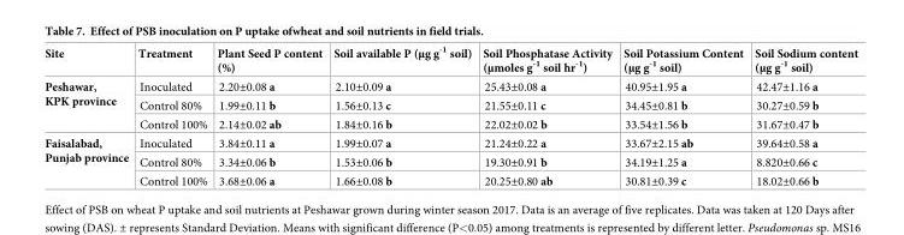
<table><thead><tr><td>Site</td><td>Treatment</td><td>Plant Seed P content (%)</td><td>Soil available P (μg g<sup>-1</sup> soil)</td><td>Soil Phosphatase Activity (μmoles g<sup>-1</sup> soil hr<sup>-1</sup>)</td><td>Soil Potassium Content (μg g<sup>-1</sup> soil)</td><td>Soil Sodium content (μg g<sup>-1</sup> soil)</td></tr></thead><tbody><tr><td rowspan="3">Peshawar, KPK province</td><td>Inoculated</td><td>2.20±0.08 a</td><td>2.10±0.09 a</td><td>25.43±0.08 a</td><td>40.95±1.95 a</td><td>42.47±1.16 a</td></tr><tr><td>Control 80%</td><td>1.99±0.11 b</td><td>1.56±0.13 c</td><td>21.55±0.11 c</td><td>34.45±0.81 b</td><td>30.27±0.59 b</td></tr><tr><td>Control 100%</td><td>2.14±0.02 ab</td><td>1.84±0.16 b</td><td>22.02±0.02 b</td><td>33.54±1.56 b</td><td>31.67±0.47 b</td></tr><tr><td rowspan="3">Faisalabad, Punjab province</td><td>Inoculated</td><td>3.84±0.11 a</td><td>1.99±0.07 a</td><td>21.24±0.22 a</td><td>33.67±2.15 ab</td><td>39.64±0.58 a</td></tr><tr><td>Control 80%</td><td>3.34±0.06 b</td><td>1.53±0.06 b</td><td>19.30±0.91 b</td><td>34.19±1.25 a</td><td>8.820±0.66 c</td></tr><tr><td>Control 100%</td><td>3.68±0.06 a</td><td>1.66±0.08 b</td><td>20.25±0.80 ab</td><td>30.81±0.39 c</td><td>18.02±0.66 b</td></tr></tbody></table>